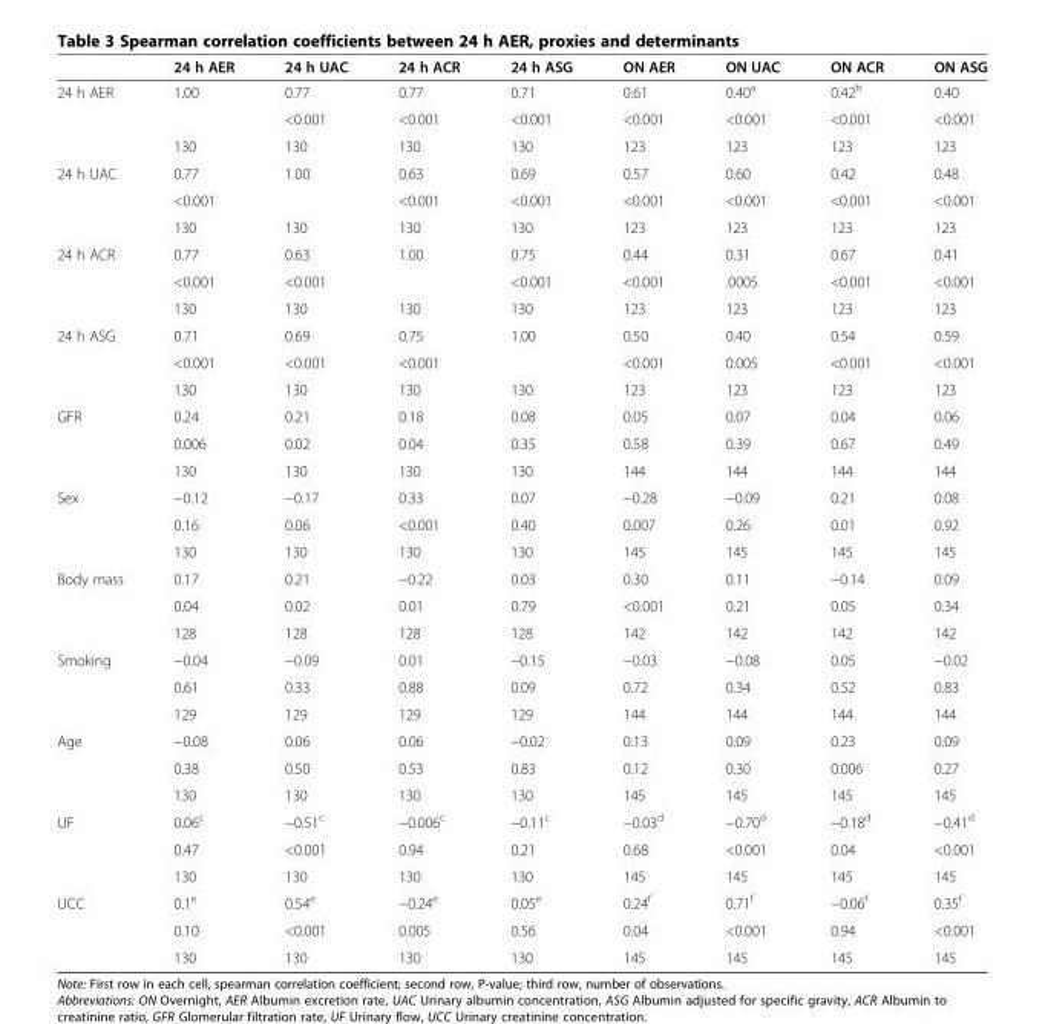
<table><thead><tr><td></td><td>24 h AER</td><td>24 h UAC</td><td>24 h ACR</td><td>24 h ASG</td><td>ON AER</td><td>ON UAC</td><td>ON ACR</td><td>ON ASG</td></tr></thead><tbody><tr><td rowspan="3">24 h AER</td><td>1.00</td><td>0.77</td><td>0.77</td><td>0.71</td><td>0.61</td><td>0.40<sup>a</sup></td><td>0.42<sup>b</sup></td><td>0.40</td></tr><tr><td></td><td>&lt;0.001</td><td>&lt;0.001</td><td>&lt;0.001</td><td>&lt;0.001</td><td>&lt;0.001</td><td>&lt;0.001</td><td>&lt;0.001</td></tr><tr><td>130</td><td>130</td><td>130</td><td>130</td><td>123</td><td>123</td><td>123</td><td>123</td></tr><tr><td rowspan="3">24 h UAC</td><td>0.77</td><td>1.00</td><td>0.63</td><td>0.69</td><td>0.57</td><td>0.60</td><td>0.42</td><td>0.48</td></tr><tr><td>&lt;0.001</td><td></td><td>&lt;0.001</td><td>&lt;0.001</td><td>&lt;0.001</td><td>&lt;0.001</td><td>&lt;0.001</td><td>&lt;0.001</td></tr><tr><td>130</td><td>130</td><td>130</td><td>130</td><td>123</td><td>123</td><td>123</td><td>123</td></tr><tr><td rowspan="3">24 h ACR</td><td>0.77</td><td>0.63</td><td>1.00</td><td>0.75</td><td>0.44</td><td>0.31</td><td>0.67</td><td>0.41</td></tr><tr><td>&lt;0.001</td><td>&lt;0.001</td><td></td><td>&lt;0.001</td><td>&lt;0.001</td><td>.0005</td><td>&lt;0.001</td><td>&lt;0.001</td></tr><tr><td>130</td><td>130</td><td>130</td><td>130</td><td>123</td><td>123</td><td>123</td><td>123</td></tr><tr><td rowspan="3">24 h ASG</td><td>0.71</td><td>0.69</td><td>0.75</td><td>1.00</td><td>0.50</td><td>0.40</td><td>0.54</td><td>0.59</td></tr><tr><td>&lt;0.001</td><td>&lt;0.001</td><td>&lt;0.001</td><td></td><td>&lt;0.001</td><td>0.005</td><td>&lt;0.001</td><td>&lt;0.001</td></tr><tr><td>130</td><td>130</td><td>130</td><td>130</td><td>123</td><td>123</td><td>123</td><td>123</td></tr><tr><td rowspan="3">GFR</td><td>0.24</td><td>0.21</td><td>0.18</td><td>0.08</td><td>0.05</td><td>0.07</td><td>0.04</td><td>0.06</td></tr><tr><td>0.006</td><td>0.02</td><td>0.04</td><td>0.35</td><td>0.58</td><td>0.39</td><td>0.67</td><td>0.49</td></tr><tr><td>130</td><td>130</td><td>130</td><td>130</td><td>144</td><td>144</td><td>144</td><td>144</td></tr><tr><td rowspan="3">Sex</td><td>−0.12</td><td>−0.17</td><td>0.33</td><td>0.07</td><td>−0.28</td><td>−0.09</td><td>0.21</td><td>0.08</td></tr><tr><td>0.16</td><td>0.06</td><td>&lt;0.001</td><td>0.40</td><td>0.007</td><td>0.26</td><td>0.01</td><td>0.92</td></tr><tr><td>130</td><td>130</td><td>130</td><td>130</td><td>145</td><td>145</td><td>145</td><td>145</td></tr><tr><td rowspan="3">Body mass</td><td>0.17</td><td>0.21</td><td>−0.22</td><td>0.03</td><td>0.30</td><td>0.11</td><td>−0.14</td><td>0.09</td></tr><tr><td>0.04</td><td>0.02</td><td>0.01</td><td>0.79</td><td>&lt;0.001</td><td>0.21</td><td>0.05</td><td>0.34</td></tr><tr><td>128</td><td>128</td><td>128</td><td>128</td><td>142</td><td>142</td><td>142</td><td>142</td></tr><tr><td rowspan="3">Smoking</td><td>−0.04</td><td>−0.09</td><td>0.01</td><td>−0.15</td><td>−0.03</td><td>−0.08</td><td>0.05</td><td>−0.02</td></tr><tr><td>0.61</td><td>0.33</td><td>0.88</td><td>0.09</td><td>0.72</td><td>0.34</td><td>0.52</td><td>0.83</td></tr><tr><td>129</td><td>129</td><td>129</td><td>129</td><td>144</td><td>144</td><td>144</td><td>144</td></tr><tr><td rowspan="3">Age</td><td>−0.08</td><td>0.06</td><td>0.06</td><td>−0.02</td><td>0.13</td><td>0.09</td><td>0.23</td><td>0.09</td></tr><tr><td>0.38</td><td>0.50</td><td>0.53</td><td>0.83</td><td>0.12</td><td>0.30</td><td>0.006</td><td>0.27</td></tr><tr><td>130</td><td>130</td><td>130</td><td>130</td><td>145</td><td>145</td><td>145</td><td>145</td></tr><tr><td rowspan="3">UF</td><td>0.06<sup>c</sup></td><td>−0.51<sup>c</sup></td><td>−0.006<sup>c</sup></td><td>−0.11<sup>c</sup></td><td>−0.03<sup>d</sup></td><td>−0.70<sup>d</sup></td><td>−0.18<sup>d</sup></td><td>−0.41<sup>d</sup></td></tr><tr><td>0.47</td><td>&lt;0.001</td><td>0.94</td><td>0.21</td><td>0.68</td><td>&lt;0.001</td><td>0.04</td><td>&lt;0.001</td></tr><tr><td>130</td><td>130</td><td>130</td><td>130</td><td>145</td><td>145</td><td>145</td><td>145</td></tr><tr><td rowspan="3">UCC</td><td>0.1<sup>e</sup></td><td>0.54<sup>e</sup></td><td>−0.24<sup>e</sup></td><td>0.05<sup>e</sup></td><td>0.24<sup>f</sup></td><td>0.71<sup>f</sup></td><td>−0.06<sup>f</sup></td><td>0.35<sup>f</sup></td></tr><tr><td>0.10</td><td>&lt;0.001</td><td>0.005</td><td>0.56</td><td>0.04</td><td>&lt;0.001</td><td>0.94</td><td>&lt;0.001</td></tr><tr><td>130</td><td>130</td><td>130</td><td>130</td><td>145</td><td>145</td><td>145</td><td>145</td></tr></tbody></table>